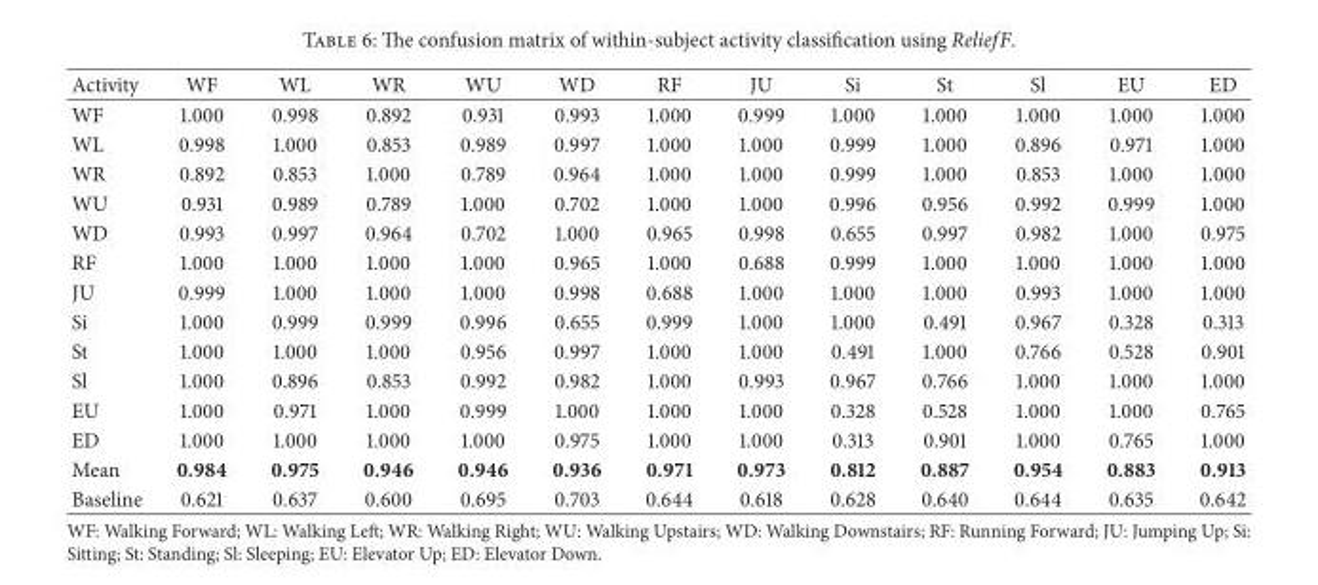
<table><thead><tr><td>Activity</td><td>WF</td><td>WL</td><td>WR</td><td>WU</td><td>WD</td><td>RF</td><td>JU</td><td>Si</td><td>St</td><td>Sl</td><td>EU</td><td>ED</td></tr></thead><tbody><tr><td>WF</td><td>1.000</td><td>0.998</td><td>0.892</td><td>0.931</td><td>0.993</td><td>1.000</td><td>0.999</td><td>1.000</td><td>1.000</td><td>1.000</td><td>1.000</td><td>1.000</td></tr><tr><td>WL</td><td>0.998</td><td>1.000</td><td>0.853</td><td>0.989</td><td>0.997</td><td>1.000</td><td>1.000</td><td>0.999</td><td>1.000</td><td>0.896</td><td>0.971</td><td>1.000</td></tr><tr><td>WR</td><td>0.892</td><td>0.853</td><td>1.000</td><td>0.789</td><td>0.964</td><td>1.000</td><td>1.000</td><td>0.999</td><td>1.000</td><td>0.853</td><td>1.000</td><td>1.000</td></tr><tr><td>WU</td><td>0.931</td><td>0.989</td><td>0.789</td><td>1.000</td><td>0.702</td><td>1.000</td><td>1.000</td><td>0.996</td><td>0.956</td><td>0.992</td><td>0.999</td><td>1.000</td></tr><tr><td>WD</td><td>0.993</td><td>0.997</td><td>0.964</td><td>0.702</td><td>1.000</td><td>0.965</td><td>0.998</td><td>0.655</td><td>0.997</td><td>0.982</td><td>1.000</td><td>0.975</td></tr><tr><td>RF</td><td>1.000</td><td>1.000</td><td>1.000</td><td>1.000</td><td>0.965</td><td>1.000</td><td>0.688</td><td>0.999</td><td>1.000</td><td>1.000</td><td>1.000</td><td>1.000</td></tr><tr><td>JU</td><td>0.999</td><td>1.000</td><td>1.000</td><td>1.000</td><td>0.998</td><td>0.688</td><td>1.000</td><td>1.000</td><td>1.000</td><td>0.993</td><td>1.000</td><td>1.000</td></tr><tr><td>Si</td><td>1.000</td><td>0.999</td><td>0.999</td><td>0.996</td><td>0.655</td><td>0.999</td><td>1.000</td><td>1.000</td><td>0.491</td><td>0.967</td><td>0.328</td><td>0.313</td></tr><tr><td>St</td><td>1.000</td><td>1.000</td><td>1.000</td><td>0.956</td><td>0.997</td><td>1.000</td><td>1.000</td><td>0.491</td><td>1.000</td><td>0.766</td><td>0.528</td><td>0.901</td></tr><tr><td>Sl</td><td>1.000</td><td>0.896</td><td>0.853</td><td>0.992</td><td>0.982</td><td>1.000</td><td>0.993</td><td>0.967</td><td>0.766</td><td>1.000</td><td>1.000</td><td>1.000</td></tr><tr><td>EU</td><td>1.000</td><td>0.971</td><td>1.000</td><td>0.999</td><td>1.000</td><td>1.000</td><td>1.000</td><td>0.328</td><td>0.528</td><td>1.000</td><td>1.000</td><td>0.765</td></tr><tr><td>ED</td><td>1.000</td><td>1.000</td><td>1.000</td><td>1.000</td><td>0.975</td><td>1.000</td><td>1.000</td><td>0.313</td><td>0.901</td><td>1.000</td><td>0.765</td><td>1.000</td></tr><tr><td>Mean</td><td>0.984</td><td>0.975</td><td>0.946</td><td>0.946</td><td>0.936</td><td>0.971</td><td>0.973</td><td>0.812</td><td>0.887</td><td>0.954</td><td>0.883</td><td>0.913</td></tr><tr><td>Baseline</td><td>0.621</td><td>0.637</td><td>0.600</td><td>0.695</td><td>0.703</td><td>0.644</td><td>0.618</td><td>0.628</td><td>0.640</td><td>0.644</td><td>0.635</td><td>0.642</td></tr></tbody></table>